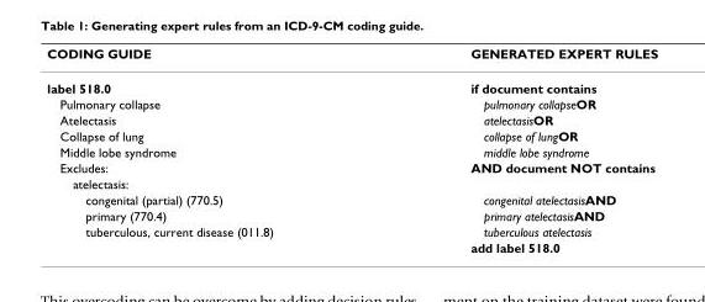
<table><thead><tr><td>CODING GUIDE</td><td>GENERATED EXPERT RULES</td></tr></thead><tbody><tr><td>label 518.0</td><td>if document contains</td></tr><tr><td>Pulmonary collapse</td><td>pulmonary collapseOR</td></tr><tr><td>Atelectasis</td><td>atelectasisOR</td></tr><tr><td>Collapse of lung</td><td>collapse of lungOR</td></tr><tr><td>Middle lobe syndrome</td><td>middle lobe syndrome</td></tr><tr><td>Excludes:</td><td>AND document NOT contains</td></tr><tr><td colspan="2">atelectasis:</td></tr><tr><td>congenital (partial) (770.5)</td><td>congenital atelectasisAND</td></tr><tr><td>primary (770.4)</td><td>primary atelectasisAND</td></tr><tr><td rowspan="2">tuberculous, current disease (011.8)</td><td>tuberculous atelectasis</td></tr><tr><td>add label 518.0</td></tr></tbody></table>